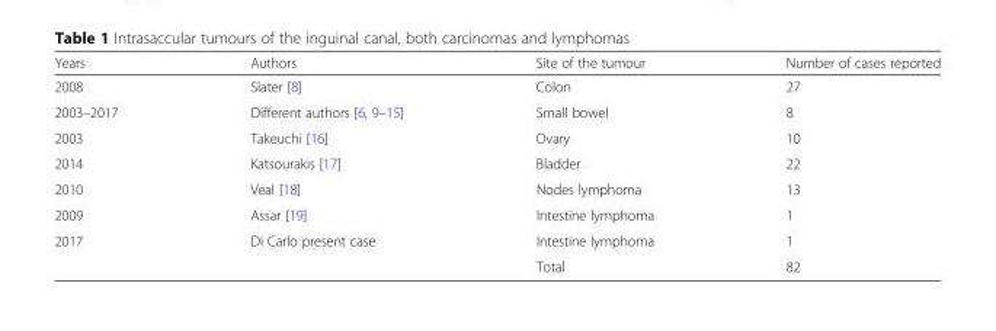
<table><thead><tr><td>Years</td><td>Authors</td><td>Site of the tumour</td><td>Number of cases reported</td></tr></thead><tbody><tr><td>2008</td><td>Slater [8]</td><td>Colon</td><td>27</td></tr><tr><td>2003–2017</td><td>Different authors [6, 9–15]</td><td>Small bowel</td><td>8</td></tr><tr><td>2003</td><td>Takeuchi [16]</td><td>Ovary</td><td>10</td></tr><tr><td>2014</td><td>Katsourakis [17]</td><td>Bladder</td><td>22</td></tr><tr><td>2010</td><td>Veal [18]</td><td>Nodes lymphoma</td><td>13</td></tr><tr><td>2009</td><td>Assar [19]</td><td>Intestine lymphoma</td><td>1</td></tr><tr><td rowspan="2">2017</td><td>Di Carlo present case</td><td>Intestine lymphoma</td><td>1</td></tr><tr><td></td><td>Total</td><td>82</td></tr></tbody></table>